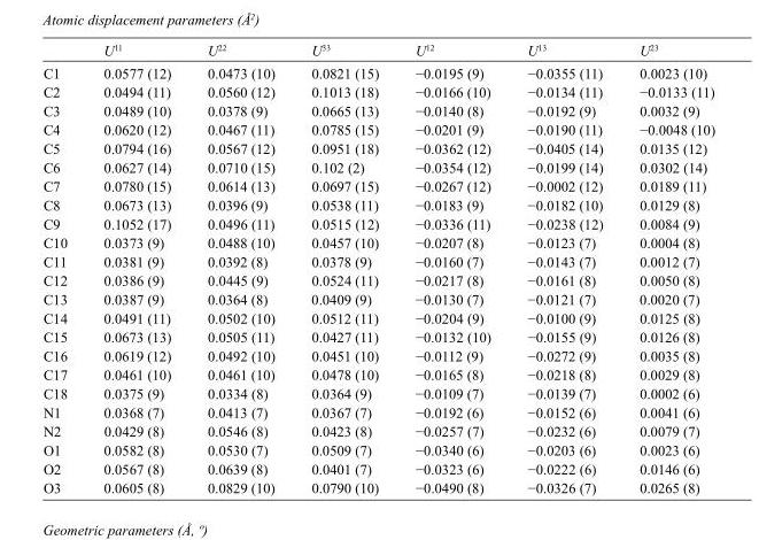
<table><thead><tr><td></td><td>U<sup>11</sup></td><td>U<sup>22</sup></td><td>U<sup>33</sup></td><td>U<sup>12</sup></td><td>U<sup>13</sup></td><td>U<sup>23</sup></td></tr></thead><tbody><tr><td>C1</td><td>0.0577 (12)</td><td>0.0473 (10)</td><td>0.0821 (15)</td><td>−0.0195 (9)</td><td>−0.0355 (11)</td><td>0.0023 (10)</td></tr><tr><td>C2</td><td>0.0494 (11)</td><td>0.0560 (12)</td><td>0.1013 (18)</td><td>−0.0166 (10)</td><td>−0.0134 (11)</td><td>−0.0133 (11)</td></tr><tr><td>C3</td><td>0.0489 (10)</td><td>0.0378 (9)</td><td>0.0665 (13)</td><td>−0.0140 (8)</td><td>−0.0192 (9)</td><td>0.0032 (9)</td></tr><tr><td>C4</td><td>0.0620 (12)</td><td>0.0467 (11)</td><td>0.0785 (15)</td><td>−0.0201 (9)</td><td>−0.0190 (11)</td><td>−0.0048 (10)</td></tr><tr><td>C5</td><td>0.0794 (16)</td><td>0.0567 (12)</td><td>0.0951 (18)</td><td>−0.0362 (12)</td><td>−0.0405 (14)</td><td>0.0135 (12)</td></tr><tr><td>C6</td><td>0.0627 (14)</td><td>0.0710 (15)</td><td>0.102 (2)</td><td>−0.0354 (12)</td><td>−0.0199 (14)</td><td>0.0302 (14)</td></tr><tr><td>C7</td><td>0.0780 (15)</td><td>0.0614 (13)</td><td>0.0697 (15)</td><td>−0.0267 (12)</td><td>−0.0002 (12)</td><td>0.0189 (11)</td></tr><tr><td>C8</td><td>0.0673 (13)</td><td>0.0396 (9)</td><td>0.0538 (11)</td><td>−0.0183 (9)</td><td>−0.0182 (10)</td><td>0.0129 (8)</td></tr><tr><td>C9</td><td>0.1052 (17)</td><td>0.0496 (11)</td><td>0.0515 (12)</td><td>−0.0336 (11)</td><td>−0.0238 (12)</td><td>0.0084 (9)</td></tr><tr><td>C10</td><td>0.0373 (9)</td><td>0.0488 (10)</td><td>0.0457 (10)</td><td>−0.0207 (8)</td><td>−0.0123 (7)</td><td>0.0004 (8)</td></tr><tr><td>C11</td><td>0.0381 (9)</td><td>0.0392 (8)</td><td>0.0378 (9)</td><td>−0.0160 (7)</td><td>−0.0143 (7)</td><td>0.0012 (7)</td></tr><tr><td>C12</td><td>0.0386 (9)</td><td>0.0445 (9)</td><td>0.0524 (11)</td><td>−0.0217 (8)</td><td>−0.0161 (8)</td><td>0.0050 (8)</td></tr><tr><td>C13</td><td>0.0387 (9)</td><td>0.0364 (8)</td><td>0.0409 (9)</td><td>−0.0130 (7)</td><td>−0.0121 (7)</td><td>0.0020 (7)</td></tr><tr><td>C14</td><td>0.0491 (11)</td><td>0.0502 (10)</td><td>0.0512 (11)</td><td>−0.0204 (9)</td><td>−0.0100 (9)</td><td>0.0125 (8)</td></tr><tr><td>C15</td><td>0.0673 (13)</td><td>0.0505 (11)</td><td>0.0427 (11)</td><td>−0.0132 (10)</td><td>−0.0155 (9)</td><td>0.0126 (8)</td></tr><tr><td>C16</td><td>0.0619 (12)</td><td>0.0492 (10)</td><td>0.0451 (10)</td><td>−0.0112 (9)</td><td>−0.0272 (9)</td><td>0.0035 (8)</td></tr><tr><td>C17</td><td>0.0461 (10)</td><td>0.0461 (10)</td><td>0.0478 (10)</td><td>−0.0165 (8)</td><td>−0.0218 (8)</td><td>0.0029 (8)</td></tr><tr><td>C18</td><td>0.0375 (9)</td><td>0.0334 (8)</td><td>0.0364 (9)</td><td>−0.0109 (7)</td><td>−0.0139 (7)</td><td>0.0002 (6)</td></tr><tr><td>N1</td><td>0.0368 (7)</td><td>0.0413 (7)</td><td>0.0367 (7)</td><td>−0.0192 (6)</td><td>−0.0152 (6)</td><td>0.0041 (6)</td></tr><tr><td>N2</td><td>0.0429 (8)</td><td>0.0546 (8)</td><td>0.0423 (8)</td><td>−0.0257 (7)</td><td>−0.0232 (6)</td><td>0.0079 (7)</td></tr><tr><td>O1</td><td>0.0582 (8)</td><td>0.0530 (7)</td><td>0.0509 (7)</td><td>−0.0340 (6)</td><td>−0.0203 (6)</td><td>0.0023 (6)</td></tr><tr><td>O2</td><td>0.0567 (8)</td><td>0.0639 (8)</td><td>0.0401 (7)</td><td>−0.0323 (6)</td><td>−0.0222 (6)</td><td>0.0146 (6)</td></tr><tr><td>O3</td><td>0.0605 (8)</td><td>0.0829 (10)</td><td>0.0790 (10)</td><td>−0.0490 (8)</td><td>−0.0326 (7)</td><td>0.0265 (8)</td></tr></tbody></table>